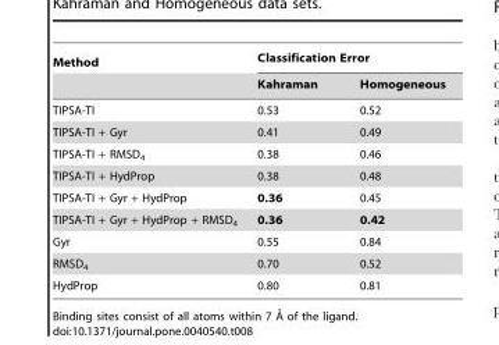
<table><thead><tr><td rowspan="2">Method</td><td colspan="2">Classification Error</td></tr><tr><td>Kahraman</td><td>Homogeneous</td></tr></thead><tbody><tr><td>TIPSA-TI</td><td>0.53</td><td>0.52</td></tr><tr><td>TIPSA-TI + Gyr</td><td>0.41</td><td>0.49</td></tr><tr><td>TIPSA-TI + RMSD<sub>4</sub></td><td>0.38</td><td>0.46</td></tr><tr><td>TIPSA-TI + HydProp</td><td>0.38</td><td>0.48</td></tr><tr><td>TIPSA-TI + Gyr + HydProp</td><td>0.36</td><td>0.45</td></tr><tr><td>TIPSA-TI + Gyr + HydProp + RMSD<sub>4</sub></td><td>0.36</td><td>0.42</td></tr><tr><td>Gyr</td><td>0.55</td><td>0.84</td></tr><tr><td>RMSD<sub>4</sub></td><td>0.70</td><td>0.52</td></tr><tr><td>HydProp</td><td>0.80</td><td>0.81</td></tr></tbody></table>